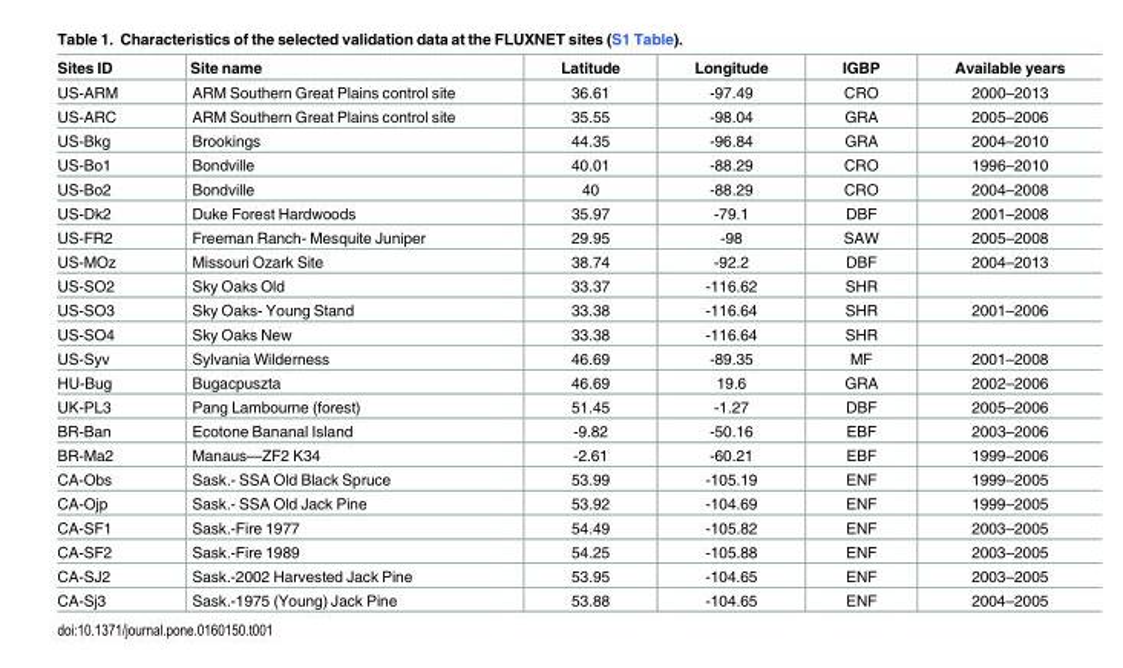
<table><thead><tr><td>Sites ID</td><td>Site name</td><td>Latitude</td><td>Longitude</td><td>IGBP</td><td>Available years</td></tr></thead><tbody><tr><td>US-ARM</td><td>ARM Southern Great Plains control site</td><td>36.61</td><td>-97.49</td><td>CRO</td><td>2000–2013</td></tr><tr><td>US-ARC</td><td>ARM Southern Great Plains control site</td><td>35.55</td><td>-98.04</td><td>GRA</td><td>2005–2006</td></tr><tr><td>US-Bkg</td><td>Brookings</td><td>44.35</td><td>-96.84</td><td>GRA</td><td>2004–2010</td></tr><tr><td>US-Bo1</td><td>Bondville</td><td>40.01</td><td>-88.29</td><td>CRO</td><td>1996–2010</td></tr><tr><td>US-Bo2</td><td>Bondville</td><td>40</td><td>-88.29</td><td>CRO</td><td>2004–2008</td></tr><tr><td>US-Dk2</td><td>Duke Forest Hardwoods</td><td>35.97</td><td>-79.1</td><td>DBF</td><td>2001–2008</td></tr><tr><td>US-FR2</td><td>Freeman Ranch- Mesquite Juniper</td><td>29.95</td><td>-98</td><td>SAW</td><td>2005–2008</td></tr><tr><td>US-MOz</td><td>Missouri Ozark Site</td><td>38.74</td><td>-92.2</td><td>DBF</td><td>2004–2013</td></tr><tr><td>US-SO2</td><td>Sky Oaks Old</td><td>33.37</td><td>-116.62</td><td>SHR</td><td></td></tr><tr><td>US-SO3</td><td>Sky Oaks- Young Stand</td><td>33.38</td><td>-116.64</td><td>SHR</td><td>2001–2006</td></tr><tr><td>US-SO4</td><td>Sky Oaks New</td><td>33.38</td><td>-116.64</td><td>SHR</td><td></td></tr><tr><td>US-Syv</td><td>Sylvania Wilderness</td><td>46.69</td><td>-89.35</td><td>MF</td><td>2001–2008</td></tr><tr><td>HU-Bug</td><td>Bugacpuszta</td><td>46.69</td><td>19.6</td><td>GRA</td><td>2002–2006</td></tr><tr><td>UK-PL3</td><td>Pang Lambourne (forest)</td><td>51.45</td><td>-1.27</td><td>DBF</td><td>2005–2006</td></tr><tr><td>BR-Ban</td><td>Ecotone Bananal Island</td><td>-9.82</td><td>-50.16</td><td>EBF</td><td>2003–2006</td></tr><tr><td>BR-Ma2</td><td>Manaus—ZF2 K34</td><td>-2.61</td><td>-60.21</td><td>EBF</td><td>1999–2006</td></tr><tr><td>CA-Obs</td><td>Sask.- SSA Old Black Spruce</td><td>53.99</td><td>-105.19</td><td>ENF</td><td>1999–2005</td></tr><tr><td>CA-Ojp</td><td>Sask.- SSA Old Jack Pine</td><td>53.92</td><td>-104.69</td><td>ENF</td><td>1999–2005</td></tr><tr><td>CA-SF1</td><td>Sask.-Fire 1977</td><td>54.49</td><td>-105.82</td><td>ENF</td><td>2003–2005</td></tr><tr><td>CA-SF2</td><td>Sask.-Fire 1989</td><td>54.25</td><td>-105.88</td><td>ENF</td><td>2003–2005</td></tr><tr><td>CA-SJ2</td><td>Sask.-2002 Harvested Jack Pine</td><td>53.95</td><td>-104.65</td><td>ENF</td><td>2003–2005</td></tr><tr><td>CA-Sj3</td><td>Sask.-1975 (Young) Jack Pine</td><td>53.88</td><td>-104.65</td><td>ENF</td><td>2004–2005</td></tr></tbody></table>